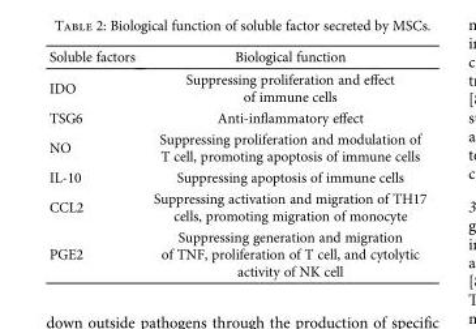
<table><thead><tr><td>Soluble factors</td><td>Biological function</td></tr></thead><tbody><tr><td>IDO</td><td>Suppressing proliferation and effect of immune cells</td></tr><tr><td>TSG6</td><td>Anti-inflammatory effect</td></tr><tr><td>NO</td><td>Suppressing proliferation and modulation of T cell, promoting apoptosis of immune cells</td></tr><tr><td>IL-10</td><td>Suppressing apoptosis of immune cells</td></tr><tr><td>CCL2</td><td>Suppressing activation and migration of TH17 cells, promoting migration of monocyte</td></tr><tr><td>PGE2</td><td>Suppressing generation and migration of TNF, proliferation of T cell, and cytolytic activity of NK cell</td></tr></tbody></table>